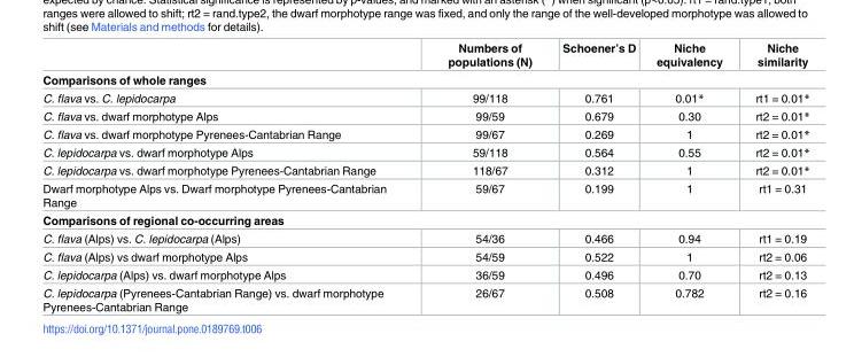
<table><thead><tr><td></td><td>Numbers of populations (N)</td><td>Schoener’s D</td><td>Niche equivalency</td><td>Niche similarity</td></tr></thead><tbody><tr><td colspan="5">Comparisons of whole ranges</td></tr><tr><td>C. flava vs. C. lepidocarpa</td><td>99/118</td><td>0.761</td><td>0.01*</td><td>rt1 = 0.01*</td></tr><tr><td>C. flava vs. dwarf morphotype Alps</td><td>99/59</td><td>0.679</td><td>0.30</td><td>rt2 = 0.01*</td></tr><tr><td>C. flava vs. dwarf morphotype Pyrenees-Cantabrian Range</td><td>99/67</td><td>0.269</td><td>1</td><td>rt2 = 0.01*</td></tr><tr><td>C. lepidocarpa vs. dwarf morphotype Alps</td><td>59/118</td><td>0.564</td><td>0.55</td><td>rt2 = 0.01*</td></tr><tr><td>C. lepidocarpa vs. dwarf morphotype Pyrenees-Cantabrian Range</td><td>118/67</td><td>0.312</td><td>1</td><td>rt2 = 0.01*</td></tr><tr><td>Dwarf morphotype Alps vs. Dwarf morphotype Pyrenees-Cantabrian Range</td><td>59/67</td><td>0.199</td><td>1</td><td>rt1 = 0.31</td></tr><tr><td colspan="5">Comparisons of regional co-occurring areas</td></tr><tr><td>C. flava (Alps) vs. C. lepidocarpa (Alps)</td><td>54/36</td><td>0.466</td><td>0.94</td><td>rt1 = 0.19</td></tr><tr><td>C. flava (Alps) vs dwarf morphotype Alps</td><td>54/59</td><td>0.522</td><td>1</td><td>rt2 = 0.06</td></tr><tr><td>C. lepidocarpa (Alps) vs. dwarf morphotype Alps</td><td>36/59</td><td>0.496</td><td>0.70</td><td>rt2 = 0.13</td></tr><tr><td>C. lepidocarpa (Pyrenees-Cantabrian Range) vs. dwarf morphotype Pyrenees-Cantabrian Range</td><td>26/67</td><td>0.508</td><td>0.782</td><td>rt2 = 0.16</td></tr></tbody></table>